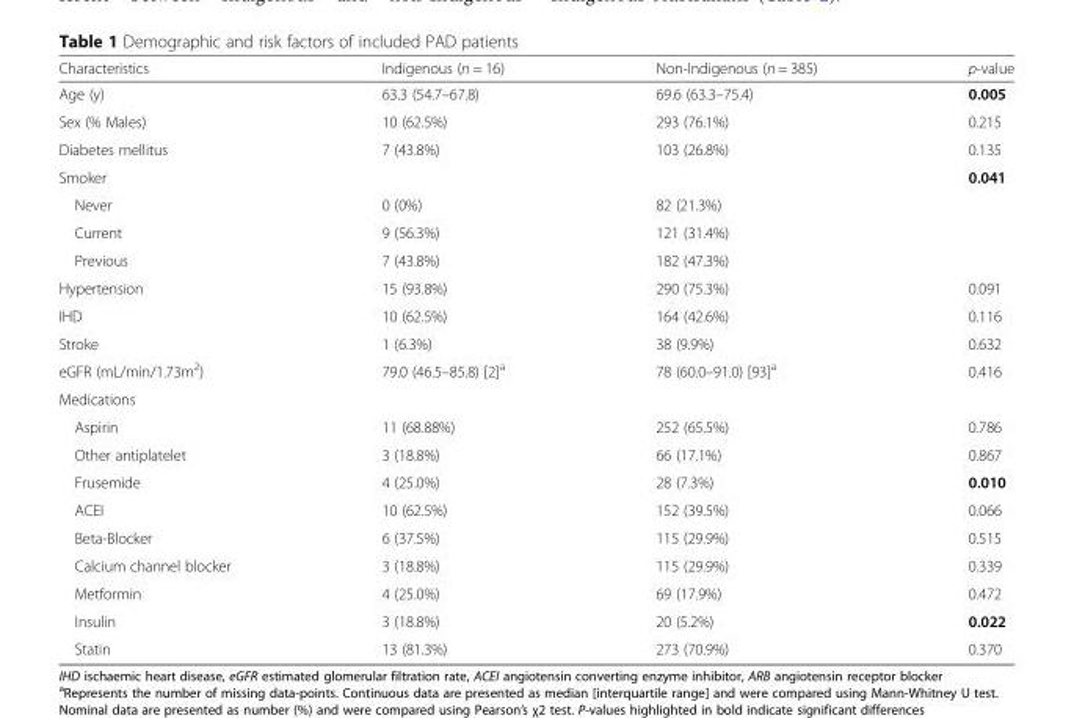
<table><thead><tr><td>Characteristics</td><td>Indigenous (n = 16)</td><td>Non-Indigenous (n = 385)</td><td>p-value</td></tr></thead><tbody><tr><td>Age (y)</td><td>63.3 (54.7–67.8)</td><td>69.6 (63.3–75.4)</td><td>0.005</td></tr><tr><td>Sex (% Males)</td><td>10 (62.5%)</td><td>293 (76.1%)</td><td>0.215</td></tr><tr><td>Diabetes mellitus</td><td>7 (43.8%)</td><td>103 (26.8%)</td><td>0.135</td></tr><tr><td>Smoker</td><td></td><td></td><td>0.041</td></tr><tr><td>Never</td><td>0 (0%)</td><td>82 (21.3%)</td><td></td></tr><tr><td>Current</td><td>9 (56.3%)</td><td>121 (31.4%)</td><td></td></tr><tr><td>Previous</td><td>7 (43.8%)</td><td>182 (47.3%)</td><td></td></tr><tr><td>Hypertension</td><td>15 (93.8%)</td><td>290 (75.3%)</td><td>0.091</td></tr><tr><td>IHD</td><td>10 (62.5%)</td><td>164 (42.6%)</td><td>0.116</td></tr><tr><td>Stroke</td><td>1 (6.3%)</td><td>38 (9.9%)</td><td>0.632</td></tr><tr><td>eGFR (mL/min/1.73m<sup>2</sup>)</td><td>79.0 (46.5–85.8) [2]<sup>a</sup></td><td>78 (60.0–91.0) [93]<sup>a</sup></td><td>0.416</td></tr><tr><td colspan="4">Medications</td></tr><tr><td>Aspirin</td><td>11 (68.88%)</td><td>252 (65.5%)</td><td>0.786</td></tr><tr><td>Other antiplatelet</td><td>3 (18.8%)</td><td>66 (17.1%)</td><td>0.867</td></tr><tr><td>Frusemide</td><td>4 (25.0%)</td><td>28 (7.3%)</td><td>0.010</td></tr><tr><td>ACEI</td><td>10 (62.5%)</td><td>152 (39.5%)</td><td>0.066</td></tr><tr><td>Beta-Blocker</td><td>6 (37.5%)</td><td>115 (29.9%)</td><td>0.515</td></tr><tr><td>Calcium channel blocker</td><td>3 (18.8%)</td><td>115 (29.9%)</td><td>0.339</td></tr><tr><td>Metformin</td><td>4 (25.0%)</td><td>69 (17.9%)</td><td>0.472</td></tr><tr><td>Insulin</td><td>3 (18.8%)</td><td>20 (5.2%)</td><td>0.022</td></tr><tr><td>Statin</td><td>13 (81.3%)</td><td>273 (70.9%)</td><td>0.370</td></tr></tbody></table>